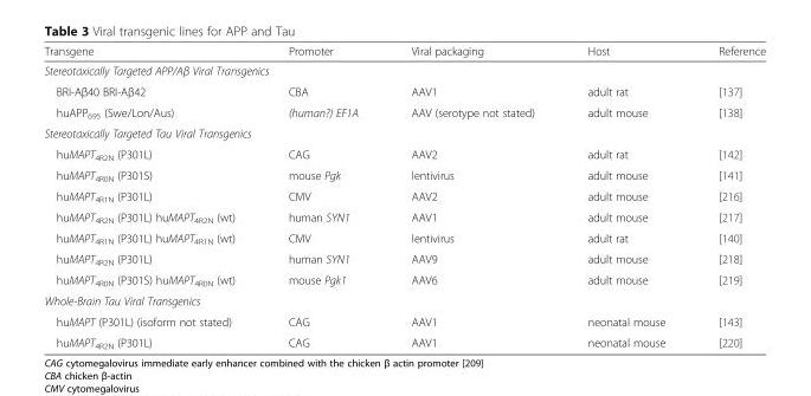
<table><thead><tr><td>Transgene</td><td>Promoter</td><td>Viral packaging</td><td>Host</td><td>Reference</td></tr></thead><tbody><tr><td colspan="5">Stereotaxically Targeted APP/Aβ Viral Transgenics</td></tr><tr><td>BRI-Aβ40 BRI-Aβ42</td><td>CBA</td><td>AAV1</td><td>adult rat</td><td>[137]</td></tr><tr><td>huAPP<sub>695</sub> (Swe/Lon/Aus)</td><td>(human?) EF1A</td><td>AAV (serotype not stated)</td><td>adult mouse</td><td>[138]</td></tr><tr><td colspan="5">Stereotaxically Targeted Tau Viral Transgenics</td></tr><tr><td>huMAPT<sub>4R2N</sub> (P301L)</td><td>CAG</td><td>AAV2</td><td>adult rat</td><td>[142]</td></tr><tr><td>huMAPT<sub>4R0N</sub> (P301S)</td><td>mouse Pgk</td><td>lentivirus</td><td>adult mouse</td><td>[141]</td></tr><tr><td>huMAPT<sub>4R1N</sub> (P301L)</td><td>CMV</td><td>AAV2</td><td>adult mouse</td><td>[216]</td></tr><tr><td>huMAPT<sub>4R2N</sub> (P301L) huMAPT<sub>4R2N</sub> (wt)</td><td>human SYN1</td><td>AAV1</td><td>adult mouse</td><td>[217]</td></tr><tr><td>huMAPT<sub>4R1N</sub> (P301L) huMAPT<sub>4R1N</sub> (wt)</td><td>CMV</td><td>lentivirus</td><td>adult rat</td><td>[140]</td></tr><tr><td>huMAPT<sub>4R2N</sub> (P301L)</td><td>human SYN1</td><td>AAV9</td><td>adult mouse</td><td>[218]</td></tr><tr><td>huMAPT<sub>4R0N</sub> (P301S) huMAPT<sub>4R0N</sub> (wt)</td><td>mouse Pgk1</td><td>AAV6</td><td>adult mouse</td><td>[219]</td></tr><tr><td colspan="5">Whole-Brain Tau Viral Transgenics</td></tr><tr><td>huMAPT (P301L) (isoform not stated)</td><td>CAG</td><td>AAV1</td><td>neonatal mouse</td><td>[143]</td></tr><tr><td>huMAPT<sub>4R2N</sub> (P301L)</td><td>CAG</td><td>AAV1</td><td>neonatal mouse</td><td>[220]</td></tr></tbody></table>